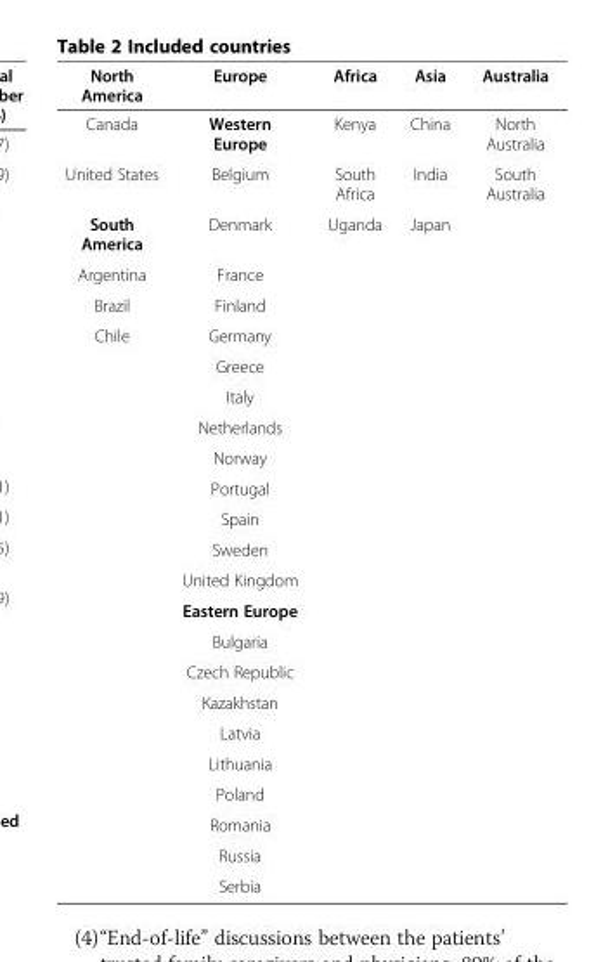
<table><thead><tr><td>North America</td><td>Europe</td><td>Africa</td><td>Asia</td><td>Australia</td></tr></thead><tbody><tr><td>Canada</td><td>Western Europe</td><td>Kenya</td><td>China</td><td>North Australia</td></tr><tr><td>United States</td><td>Belgium</td><td>South Africa</td><td>India</td><td>South Australia</td></tr><tr><td>South America</td><td>Denmark</td><td>Uganda</td><td>Japan</td><td></td></tr><tr><td>Argentina</td><td>France</td><td></td><td></td><td></td></tr><tr><td>Brazil</td><td>Finland</td><td></td><td></td><td></td></tr><tr><td rowspan="19">Chile</td><td>Germany</td><td></td><td></td><td></td></tr><tr><td>Greece</td><td></td><td></td><td></td></tr><tr><td>Italy</td><td></td><td></td><td></td></tr><tr><td>Netherlands</td><td></td><td></td><td></td></tr><tr><td>Norway</td><td></td><td></td><td></td></tr><tr><td>Portugal</td><td></td><td></td><td></td></tr><tr><td>Spain</td><td></td><td></td><td></td></tr><tr><td>Sweden</td><td></td><td></td><td></td></tr><tr><td>United Kingdom</td><td></td><td></td><td></td></tr><tr><td>Eastern Europe</td><td></td><td></td><td></td></tr><tr><td>Bulgaria</td><td></td><td></td><td></td></tr><tr><td>Czech Republic</td><td></td><td></td><td></td></tr><tr><td>Kazakhstan</td><td></td><td></td><td></td></tr><tr><td>Latvia</td><td></td><td></td><td></td></tr><tr><td>Lithuania</td><td></td><td></td><td></td></tr><tr><td>Poland</td><td></td><td></td><td></td></tr><tr><td>Romania</td><td></td><td></td><td></td></tr><tr><td>Russia</td><td></td><td></td><td></td></tr><tr><td>Serbia</td><td></td><td></td><td></td></tr></tbody></table>